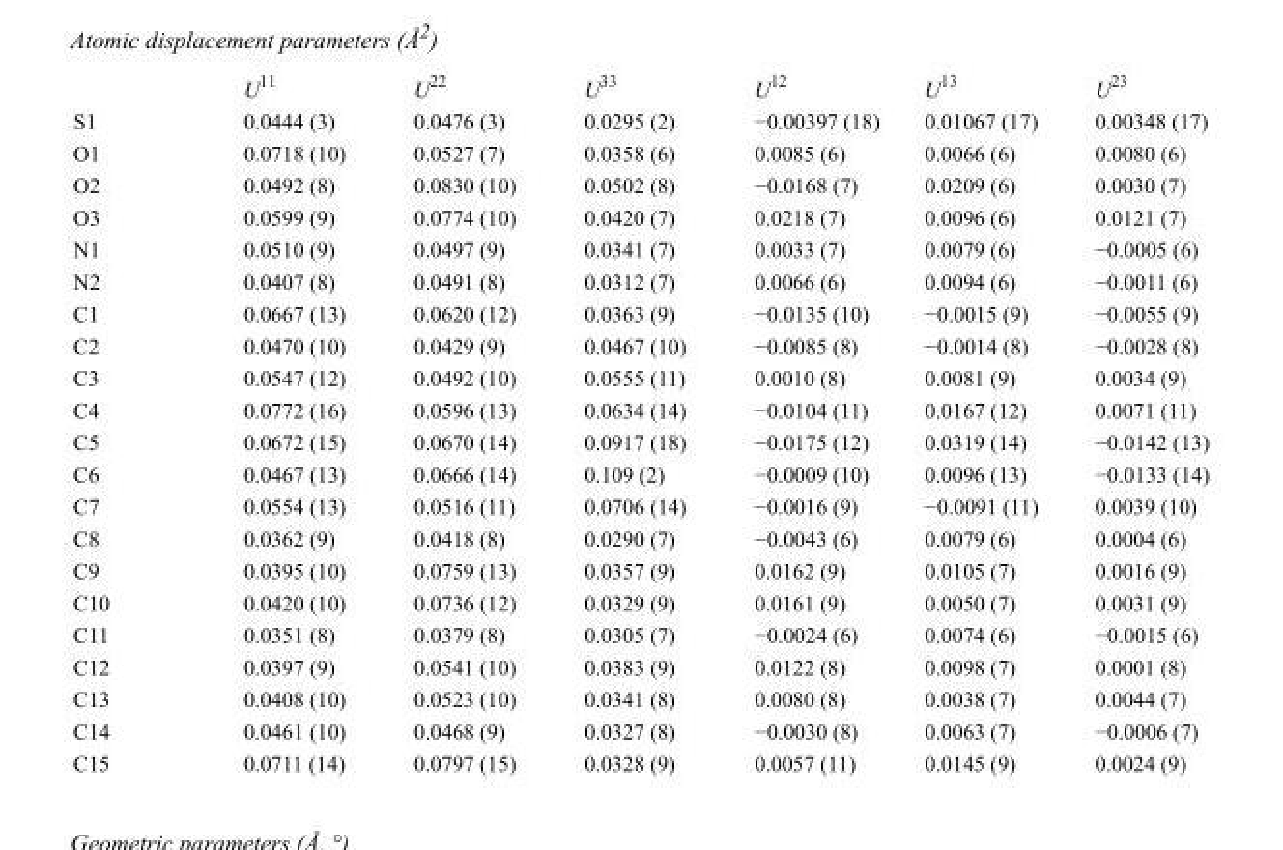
<table><thead><tr><td></td><td>U<sup>11</sup></td><td>U<sup>22</sup></td><td>U<sup>33</sup></td><td>U<sup>12</sup></td><td>U<sup>13</sup></td><td>U<sup>23</sup></td></tr></thead><tbody><tr><td>S1</td><td>0.0444 (3)</td><td>0.0476 (3)</td><td>0.0295 (2)</td><td>−0.00397 (18)</td><td>0.01067 (17)</td><td>0.00348 (17)</td></tr><tr><td>O1</td><td>0.0718 (10)</td><td>0.0527 (7)</td><td>0.0358 (6)</td><td>0.0085 (6)</td><td>0.0066 (6)</td><td>0.0080 (6)</td></tr><tr><td>O2</td><td>0.0492 (8)</td><td>0.0830 (10)</td><td>0.0502 (8)</td><td>−0.0168 (7)</td><td>0.0209 (6)</td><td>0.0030 (7)</td></tr><tr><td>O3</td><td>0.0599 (9)</td><td>0.0774 (10)</td><td>0.0420 (7)</td><td>0.0218 (7)</td><td>0.0096 (6)</td><td>0.0121 (7)</td></tr><tr><td>N1</td><td>0.0510 (9)</td><td>0.0497 (9)</td><td>0.0341 (7)</td><td>0.0033 (7)</td><td>0.0079 (6)</td><td>−0.0005 (6)</td></tr><tr><td>N2</td><td>0.0407 (8)</td><td>0.0491 (8)</td><td>0.0312 (7)</td><td>0.0066 (6)</td><td>0.0094 (6)</td><td>−0.0011 (6)</td></tr><tr><td>C1</td><td>0.0667 (13)</td><td>0.0620 (12)</td><td>0.0363 (9)</td><td>−0.0135 (10)</td><td>−0.0015 (9)</td><td>−0.0055 (9)</td></tr><tr><td>C2</td><td>0.0470 (10)</td><td>0.0429 (9)</td><td>0.0467 (10)</td><td>−0.0085 (8)</td><td>−0.0014 (8)</td><td>−0.0028 (8)</td></tr><tr><td>C3</td><td>0.0547 (12)</td><td>0.0492 (10)</td><td>0.0555 (11)</td><td>0.0010 (8)</td><td>0.0081 (9)</td><td>0.0034 (9)</td></tr><tr><td>C4</td><td>0.0772 (16)</td><td>0.0596 (13)</td><td>0.0634 (14)</td><td>−0.0104 (11)</td><td>0.0167 (12)</td><td>0.0071 (11)</td></tr><tr><td>C5</td><td>0.0672 (15)</td><td>0.0670 (14)</td><td>0.0917 (18)</td><td>−0.0175 (12)</td><td>0.0319 (14)</td><td>−0.0142 (13)</td></tr><tr><td>C6</td><td>0.0467 (13)</td><td>0.0666 (14)</td><td>0.109 (2)</td><td>−0.0009 (10)</td><td>0.0096 (13)</td><td>−0.0133 (14)</td></tr><tr><td>C7</td><td>0.0554 (13)</td><td>0.0516 (11)</td><td>0.0706 (14)</td><td>−0.0016 (9)</td><td>−0.0091 (11)</td><td>0.0039 (10)</td></tr><tr><td>C8</td><td>0.0362 (9)</td><td>0.0418 (8)</td><td>0.0290 (7)</td><td>−0.0043 (6)</td><td>0.0079 (6)</td><td>0.0004 (6)</td></tr><tr><td>C9</td><td>0.0395 (10)</td><td>0.0759 (13)</td><td>0.0357 (9)</td><td>0.0162 (9)</td><td>0.0105 (7)</td><td>0.0016 (9)</td></tr><tr><td>C10</td><td>0.0420 (10)</td><td>0.0736 (12)</td><td>0.0329 (9)</td><td>0.0161 (9)</td><td>0.0050 (7)</td><td>0.0031 (9)</td></tr><tr><td>C11</td><td>0.0351 (8)</td><td>0.0379 (8)</td><td>0.0305 (7)</td><td>−0.0024 (6)</td><td>0.0074 (6)</td><td>−0.0015 (6)</td></tr><tr><td>C12</td><td>0.0397 (9)</td><td>0.0541 (10)</td><td>0.0383 (9)</td><td>0.0122 (8)</td><td>0.0098 (7)</td><td>0.0001 (8)</td></tr><tr><td>C13</td><td>0.0408 (10)</td><td>0.0523 (10)</td><td>0.0341 (8)</td><td>0.0080 (8)</td><td>0.0038 (7)</td><td>0.0044 (7)</td></tr><tr><td>C14</td><td>0.0461 (10)</td><td>0.0468 (9)</td><td>0.0327 (8)</td><td>−0.0030 (8)</td><td>0.0063 (7)</td><td>−0.0006 (7)</td></tr><tr><td>C15</td><td>0.0711 (14)</td><td>0.0797 (15)</td><td>0.0328 (9)</td><td>0.0057 (11)</td><td>0.0145 (9)</td><td>0.0024 (9)</td></tr></tbody></table>